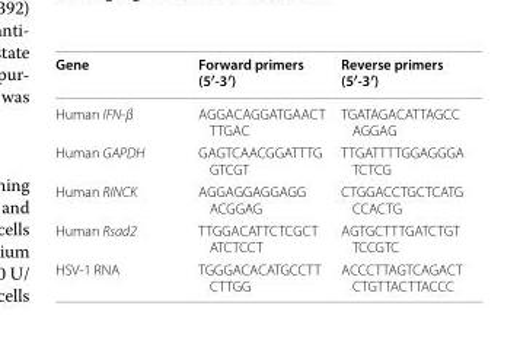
<table><thead><tr><td>Gene</td><td>Forward primers (5′‑3′)</td><td>Reverse primers (5′‑3′)</td></tr></thead><tbody><tr><td>Human IFN‑β</td><td>AGG ACA GGA TGA ACT TTG AC</td><td>TGA TAG ACA TTA GCC AGG AG</td></tr><tr><td>Human GAPDH</td><td>GAG TCA ACG GAT TTG GTC GT</td><td>TTG ATT TTG GAG GGA TCT CG</td></tr><tr><td>Human RINCK</td><td>AGG AGG AGG AGG ACG GAG</td><td>CTG GAC CTG CTC ATG CCA CTG</td></tr><tr><td>Human Rsad2</td><td>TTG GAC ATT CTC GCT ATC TCCT</td><td>AGT GCT TTG ATC TGT TCC GTC</td></tr><tr><td>HSV‑1 RNA</td><td>TGG GAC ACA TGC CTT CTT GG</td><td>ACC CTT AGT CAG ACT CTG TTA CTT ACCC</td></tr></tbody></table>